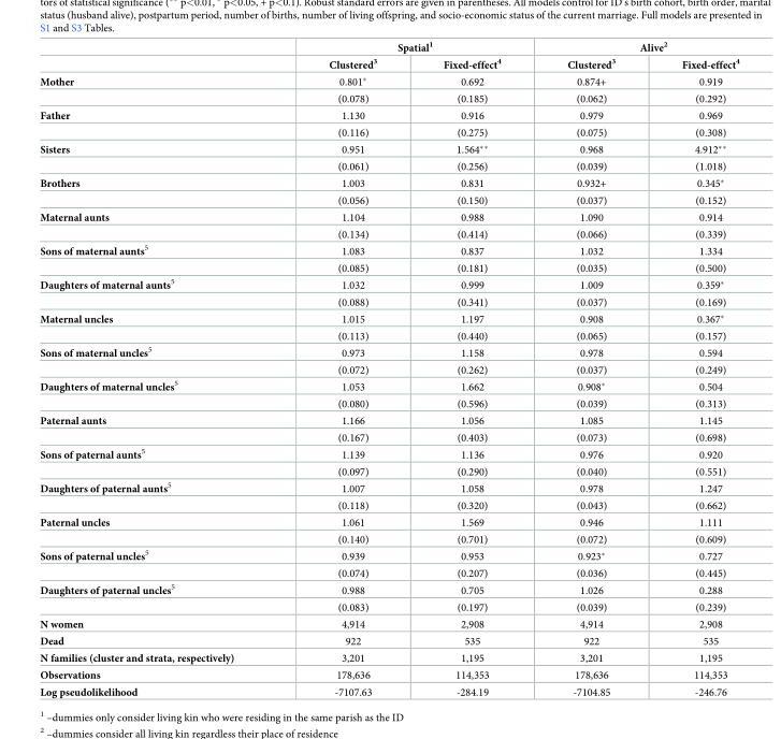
<table><thead><tr><td rowspan="2"></td><td colspan="2">Spatial<sup>1</sup></td><td colspan="2">Alive<sup>2</sup></td></tr><tr><td>Clustered<sup>3</sup></td><td>Fixed-effect<sup>4</sup></td><td>Clustered<sup>3</sup></td><td>Fixed-effect<sup>4</sup></td></tr></thead><tbody><tr><td rowspan="2">Mother</td><td>0.801*</td><td>0.692</td><td>0.874+</td><td>0.919</td></tr><tr><td>(0.078)</td><td>(0.185)</td><td>(0.062)</td><td>(0.292)</td></tr><tr><td rowspan="2">Father</td><td>1.130</td><td>0.916</td><td>0.979</td><td>0.969</td></tr><tr><td>(0.116)</td><td>(0.275)</td><td>(0.075)</td><td>(0.308)</td></tr><tr><td rowspan="2">Sisters</td><td>0.951</td><td>1.564**</td><td>0.968</td><td>4.912**</td></tr><tr><td>(0.061)</td><td>(0.256)</td><td>(0.039)</td><td>(1.018)</td></tr><tr><td rowspan="2">Brothers</td><td>1.003</td><td>0.831</td><td>0.932+</td><td>0.345*</td></tr><tr><td>(0.056)</td><td>(0.150)</td><td>(0.037)</td><td>(0.152)</td></tr><tr><td rowspan="2">Maternal aunts</td><td>1.104</td><td>0.988</td><td>1.090</td><td>0.914</td></tr><tr><td>(0.134)</td><td>(0.414)</td><td>(0.066)</td><td>(0.339)</td></tr><tr><td rowspan="2">Sons of maternal aunts<sup>5</sup></td><td>1.083</td><td>0.837</td><td>1.032</td><td>1.334</td></tr><tr><td>(0.085)</td><td>(0.181)</td><td>(0.035)</td><td>(0.500)</td></tr><tr><td rowspan="2">Daughters of maternal aunts<sup>5</sup></td><td>1.032</td><td>0.999</td><td>1.009</td><td>0.359*</td></tr><tr><td>(0.088)</td><td>(0.341)</td><td>(0.037)</td><td>(0.169)</td></tr><tr><td rowspan="2">Maternal uncles</td><td>1.015</td><td>1.197</td><td>0.908</td><td>0.367*</td></tr><tr><td>(0.113)</td><td>(0.440)</td><td>(0.065)</td><td>(0.157)</td></tr><tr><td rowspan="2">Sons of maternal uncles<sup>5</sup></td><td>0.973</td><td>1.158</td><td>0.978</td><td>0.594</td></tr><tr><td>(0.072)</td><td>(0.262)</td><td>(0.037)</td><td>(0.249)</td></tr><tr><td rowspan="2">Daughters of maternal uncles<sup>5</sup></td><td>1.053</td><td>1.662</td><td>0.908*</td><td>0.504</td></tr><tr><td>(0.080)</td><td>(0.596)</td><td>(0.039)</td><td>(0.313)</td></tr><tr><td rowspan="2">Paternal aunts</td><td>1.166</td><td>1.056</td><td>1.085</td><td>1.145</td></tr><tr><td>(0.167)</td><td>(0.403)</td><td>(0.073)</td><td>(0.698)</td></tr><tr><td rowspan="2">Sons of paternal aunts<sup>5</sup></td><td>1.139</td><td>1.136</td><td>0.976</td><td>0.920</td></tr><tr><td>(0.097)</td><td>(0.290)</td><td>(0.040)</td><td>(0.551)</td></tr><tr><td rowspan="2">Daughters of paternal aunts<sup>5</sup></td><td>1.007</td><td>1.058</td><td>0.978</td><td>1.247</td></tr><tr><td>(0.118)</td><td>(0.320)</td><td>(0.043)</td><td>(0.662)</td></tr><tr><td rowspan="2">Paternal uncles</td><td>1.061</td><td>1.569</td><td>0.946</td><td>1.111</td></tr><tr><td>(0.140)</td><td>(0.701)</td><td>(0.072)</td><td>(0.609)</td></tr><tr><td rowspan="2">Sons of paternal uncles<sup>5</sup></td><td>0.939</td><td>0.953</td><td>0.923*</td><td>0.727</td></tr><tr><td>(0.074)</td><td>(0.207)</td><td>(0.036)</td><td>(0.445)</td></tr><tr><td rowspan="2">Daughters of paternal uncles<sup>5</sup></td><td>0.988</td><td>0.705</td><td>1.026</td><td>0.288</td></tr><tr><td>(0.083)</td><td>(0.197)</td><td>(0.039)</td><td>(0.239)</td></tr><tr><td>N women</td><td>4,914</td><td>2,908</td><td>4,914</td><td>2,908</td></tr><tr><td>Dead</td><td>922</td><td>535</td><td>922</td><td>535</td></tr><tr><td>N families (cluster and strata, respectively)</td><td>3,201</td><td>1,195</td><td>3,201</td><td>1,195</td></tr><tr><td>Observations</td><td>178,636</td><td>114,353</td><td>178,636</td><td>114,353</td></tr><tr><td>Log pseudolikelihood</td><td>-7107.63</td><td>-284.19</td><td>-7104.85</td><td>-246.76</td></tr></tbody></table>